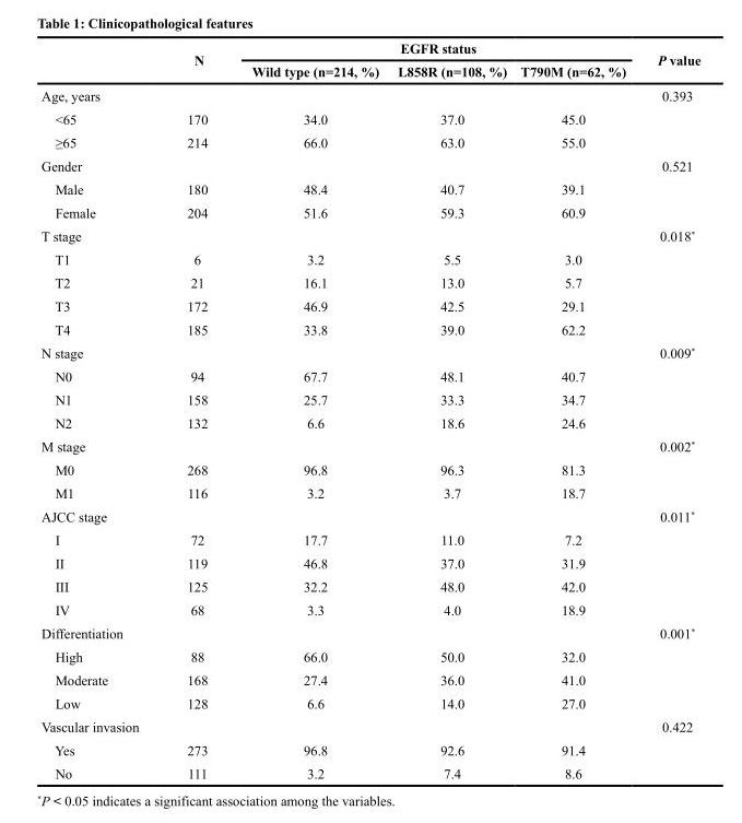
<table><thead><tr><td rowspan="2"></td><td rowspan="2">N</td><td colspan="3">EGFR status</td><td rowspan="2">P value</td></tr><tr><td>Wild type (n=214, %)</td><td>L858R (n=108, %)</td><td>T790M (n=62, %)</td></tr></thead><tbody><tr><td>Age, years</td><td></td><td></td><td></td><td></td><td>0.393</td></tr><tr><td>&lt;65</td><td>170</td><td>34.0</td><td>37.0</td><td>45.0</td><td></td></tr><tr><td>≥65</td><td>214</td><td>66.0</td><td>63.0</td><td>55.0</td><td></td></tr><tr><td>Gender</td><td></td><td></td><td></td><td></td><td>0.521</td></tr><tr><td>Male</td><td>180</td><td>48.4</td><td>40.7</td><td>39.1</td><td></td></tr><tr><td>Female</td><td>204</td><td>51.6</td><td>59.3</td><td>60.9</td><td></td></tr><tr><td>T stage</td><td></td><td></td><td></td><td></td><td>0.018*</td></tr><tr><td>T1</td><td>6</td><td>3.2</td><td>5.5</td><td>3.0</td><td></td></tr><tr><td>T2</td><td>21</td><td>16.1</td><td>13.0</td><td>5.7</td><td></td></tr><tr><td>T3</td><td>172</td><td>46.9</td><td>42.5</td><td>29.1</td><td></td></tr><tr><td>T4</td><td>185</td><td>33.8</td><td>39.0</td><td>62.2</td><td></td></tr><tr><td>N stage</td><td></td><td></td><td></td><td></td><td>0.009*</td></tr><tr><td>N0</td><td>94</td><td>67.7</td><td>48.1</td><td>40.7</td><td></td></tr><tr><td>N1</td><td>158</td><td>25.7</td><td>33.3</td><td>34.7</td><td></td></tr><tr><td>N2</td><td>132</td><td>6.6</td><td>18.6</td><td>24.6</td><td></td></tr><tr><td>M stage</td><td></td><td></td><td></td><td></td><td>0.002*</td></tr><tr><td>M0</td><td>268</td><td>96.8</td><td>96.3</td><td>81.3</td><td></td></tr><tr><td>M1</td><td>116</td><td>3.2</td><td>3.7</td><td>18.7</td><td></td></tr><tr><td>AJCC stage</td><td></td><td></td><td></td><td></td><td>0.011*</td></tr><tr><td>I</td><td>72</td><td>17.7</td><td>11.0</td><td>7.2</td><td></td></tr><tr><td>II</td><td>119</td><td>46.8</td><td>37.0</td><td>31.9</td><td></td></tr><tr><td>III</td><td>125</td><td>32.2</td><td>48.0</td><td>42.0</td><td></td></tr><tr><td>IV</td><td>68</td><td>3.3</td><td>4.0</td><td>18.9</td><td></td></tr><tr><td>Differentiation</td><td></td><td></td><td></td><td></td><td>0.001*</td></tr><tr><td>High</td><td>88</td><td>66.0</td><td>50.0</td><td>32.0</td><td></td></tr><tr><td>Moderate</td><td>168</td><td>27.4</td><td>36.0</td><td>41.0</td><td></td></tr><tr><td>Low</td><td>128</td><td>6.6</td><td>14.0</td><td>27.0</td><td></td></tr><tr><td>Vascular invasion</td><td></td><td></td><td></td><td></td><td>0.422</td></tr><tr><td>Yes</td><td>273</td><td>96.8</td><td>92.6</td><td>91.4</td><td></td></tr><tr><td>No</td><td>111</td><td>3.2</td><td>7.4</td><td>8.6</td><td></td></tr></tbody></table>